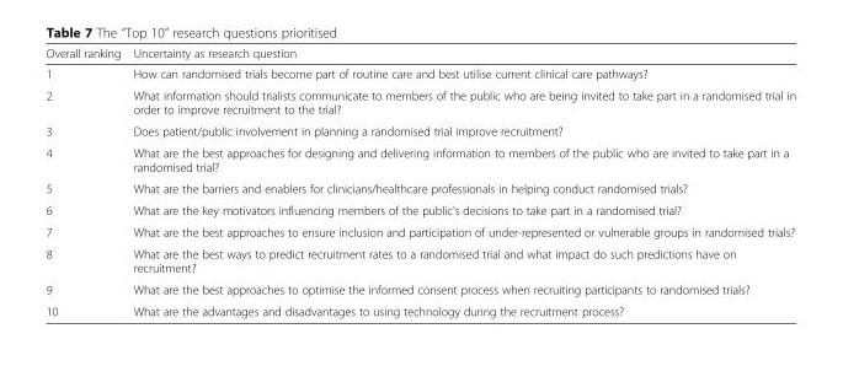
<table><thead><tr><td>Overall ranking</td><td>Uncertainty as research question</td></tr></thead><tbody><tr><td>1</td><td>How can randomised trials become part of routine care and best utilise current clinical care pathways?</td></tr><tr><td>2</td><td>What information should trialists communicate to members of the public who are being invited to take part in a randomised trial in order to improve recruitment to the trial?</td></tr><tr><td>3</td><td>Does patient/public involvement in planning a randomised trial improve recruitment?</td></tr><tr><td>4</td><td>What are the best approaches for designing and delivering information to members of the public who are invited to take part in a randomised trial?</td></tr><tr><td>5</td><td>What are the barriers and enablers for clinicians/healthcare professionals in helping conduct randomised trials?</td></tr><tr><td>6</td><td>What are the key motivators influencing members of the public’s decisions to take part in a randomised trial?</td></tr><tr><td>7</td><td>What are the best approaches to ensure inclusion and participation of under-represented or vulnerable groups in randomised trials?</td></tr><tr><td>8</td><td>What are the best ways to predict recruitment rates to a randomised trial and what impact do such predictions have on recruitment?</td></tr><tr><td>9</td><td>What are the best approaches to optimise the informed consent process when recruiting participants to randomised trials?</td></tr><tr><td>10</td><td>What are the advantages and disadvantages to using technology during the recruitment process?</td></tr></tbody></table>